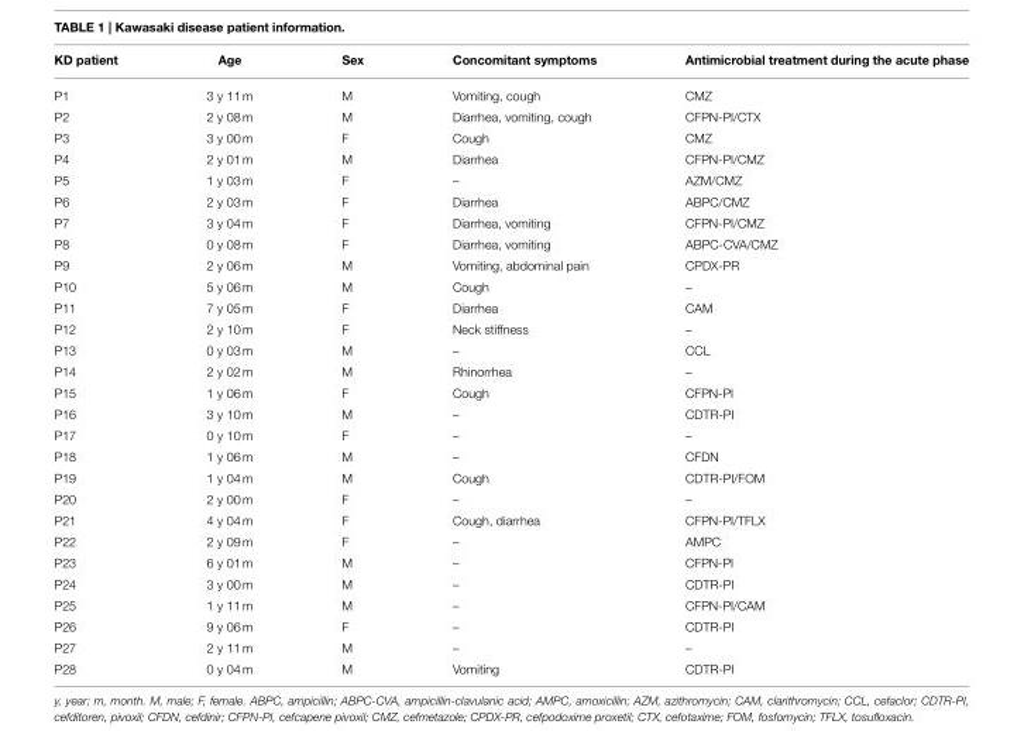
<table><thead><tr><td>KD patient</td><td>Age</td><td>Sex</td><td>Concomitant symptoms</td><td>Antimicrobial treatment during the acute phase</td></tr></thead><tbody><tr><td>P1</td><td>3 y 11 m</td><td>M</td><td>Vomiting, cough</td><td>CMZ</td></tr><tr><td>P2</td><td>2 y 08 m</td><td>M</td><td>Diarrhea, vomiting, cough</td><td>CFPN-PI/CTX</td></tr><tr><td>P3</td><td>3 y 00 m</td><td>F</td><td>Cough</td><td>CMZ</td></tr><tr><td>P4</td><td>2 y 01 m</td><td>M</td><td>Diarrhea</td><td>CFPN-PI/CMZ</td></tr><tr><td>P5</td><td>1 y 03 m</td><td>F</td><td>–</td><td>AZM/CMZ</td></tr><tr><td>P6</td><td>2 y 03 m</td><td>F</td><td>Diarrhea</td><td>ABPC/CMZ</td></tr><tr><td>P7</td><td>3 y 04 m</td><td>F</td><td>Diarrhea, vomiting</td><td>CFPN-PI/CMZ</td></tr><tr><td>P8</td><td>0 y 08 m</td><td>F</td><td>Diarrhea, vomiting</td><td>ABPC-CVA/CMZ</td></tr><tr><td>P9</td><td>2 y 06 m</td><td>M</td><td>Vomiting, abdominal pain</td><td>CPDX-PR</td></tr><tr><td>P10</td><td>5 y 06 m</td><td>M</td><td>Cough</td><td>–</td></tr><tr><td>P11</td><td>7 y 05 m</td><td>F</td><td>Diarrhea</td><td>CAM</td></tr><tr><td>P12</td><td>2 y 10 m</td><td>F</td><td>Neck stiffness</td><td>–</td></tr><tr><td>P13</td><td>0 y 03 m</td><td>M</td><td>–</td><td>CCL</td></tr><tr><td>P14</td><td>2 y 02 m</td><td>M</td><td>Rhinorrhea</td><td>–</td></tr><tr><td>P15</td><td>1 y 06 m</td><td>F</td><td>Cough</td><td>CFPN-PI</td></tr><tr><td>P16</td><td>3 y 10 m</td><td>M</td><td>–</td><td>CDTR-PI</td></tr><tr><td>P17</td><td>0 y 10 m</td><td>F</td><td>–</td><td>–</td></tr><tr><td>P18</td><td>1 y 06 m</td><td>M</td><td>–</td><td>CFDN</td></tr><tr><td>P19</td><td>1 y 04 m</td><td>M</td><td>Cough</td><td>CDTR-PI/FOM</td></tr><tr><td>P20</td><td>2 y 00 m</td><td>F</td><td>–</td><td>–</td></tr><tr><td>P21</td><td>4 y 04 m</td><td>F</td><td>Cough, diarrhea</td><td>CFPN-PI/TFLX</td></tr><tr><td>P22</td><td>2 y 09 m</td><td>F</td><td>–</td><td>AMPC</td></tr><tr><td>P23</td><td>6 y 01 m</td><td>M</td><td>–</td><td>CFPN-PI</td></tr><tr><td>P24</td><td>3 y 00 m</td><td>M</td><td>–</td><td>CDTR-PI</td></tr><tr><td>P25</td><td>1 y 11 m</td><td>M</td><td>–</td><td>CFPN-PI/CAM</td></tr><tr><td>P26</td><td>9 y 06 m</td><td>F</td><td>–</td><td>CDTR-PI</td></tr><tr><td>P27</td><td>2 y 11 m</td><td>M</td><td>–</td><td>–</td></tr><tr><td>P28</td><td>0 y 04 m</td><td>M</td><td>Vomiting</td><td>CDTR-PI</td></tr></tbody></table>